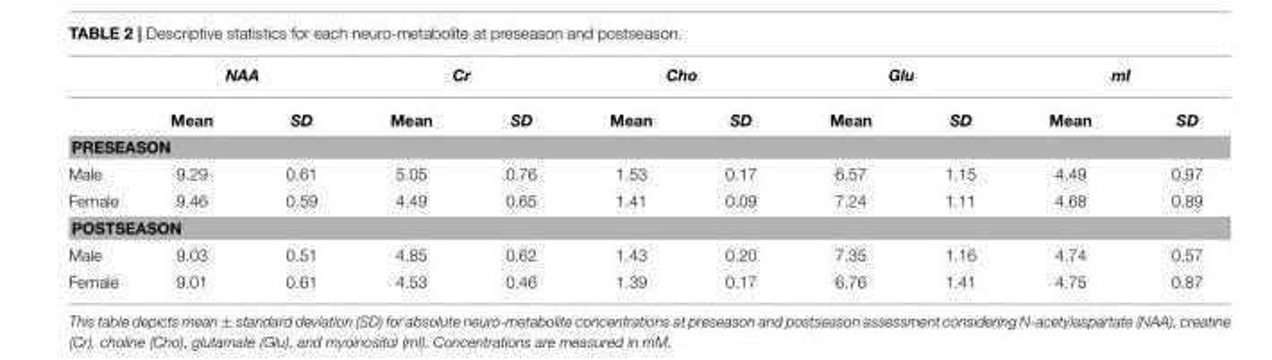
<table><thead><tr><td rowspan="2"></td><td colspan="2">NAA</td><td colspan="2">Cr</td><td colspan="2">Cho</td><td colspan="2">Glu</td><td colspan="2">mI</td></tr><tr><td>Mean</td><td>SD</td><td>Mean</td><td>SD</td><td>Mean</td><td>SD</td><td>Mean</td><td>SD</td><td>Mean</td><td>SD</td></tr></thead><tbody><tr><td colspan="11">PRESEASON</td></tr><tr><td>Male</td><td>9.29</td><td>0.61</td><td>5.05</td><td>0.76</td><td>1.53</td><td>0.17</td><td>6.57</td><td>1.15</td><td>4.49</td><td>0.97</td></tr><tr><td>Female</td><td>9.46</td><td>0.59</td><td>4.49</td><td>0.65</td><td>1.41</td><td>0.09</td><td>7.24</td><td>1.11</td><td>4.68</td><td>0.89</td></tr><tr><td colspan="11">POSTSEASON</td></tr><tr><td>Male</td><td>9.03</td><td>0.51</td><td>4.85</td><td>0.62</td><td>1.43</td><td>0.20</td><td>7.35</td><td>1.16</td><td>4.74</td><td>0.57</td></tr><tr><td>Female</td><td>9.01</td><td>0.61</td><td>4.53</td><td>0.46</td><td>1.39</td><td>0.17</td><td>6.76</td><td>1.41</td><td>4.75</td><td>0.87</td></tr></tbody></table>